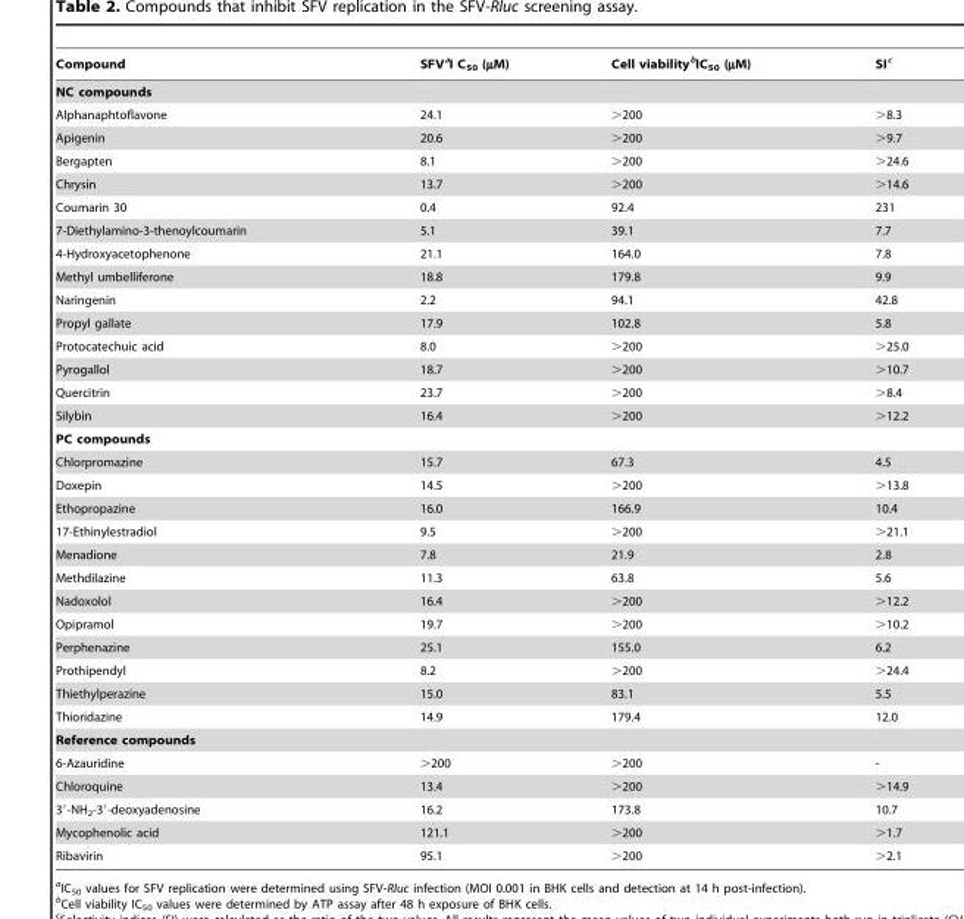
<table><thead><tr><td>Compound</td><td>SFV<sup>a</sup>I C<sub>50</sub> (µM)</td><td>Cell viability<sup>b</sup>IC<sub>50</sub> (µM)</td><td>SI<sup>c</sup></td></tr></thead><tbody><tr><td colspan="4">NC compounds</td></tr><tr><td>Alphanaphtoflavone</td><td>24.1</td><td>&gt;200</td><td>&gt;8.3</td></tr><tr><td>Apigenin</td><td>20.6</td><td>&gt;200</td><td>&gt;9.7</td></tr><tr><td>Bergapten</td><td>8.1</td><td>&gt;200</td><td>&gt;24.6</td></tr><tr><td>Chrysin</td><td>13.7</td><td>&gt;200</td><td>&gt;14.6</td></tr><tr><td>Coumarin 30</td><td>0.4</td><td>92.4</td><td>231</td></tr><tr><td>7-Diethylamino-3-thenoylcoumarin</td><td>5.1</td><td>39.1</td><td>7.7</td></tr><tr><td>4-Hydroxyacetophenone</td><td>21.1</td><td>164.0</td><td>7.8</td></tr><tr><td>Methyl umbelliferone</td><td>18.8</td><td>179.8</td><td>9.9</td></tr><tr><td>Naringenin</td><td>2.2</td><td>94.1</td><td>42.8</td></tr><tr><td>Propyl gallate</td><td>17.9</td><td>102.8</td><td>5.8</td></tr><tr><td>Protocatechuic acid</td><td>8.0</td><td>&gt;200</td><td>&gt;25.0</td></tr><tr><td>Pyrogallol</td><td>18.7</td><td>&gt;200</td><td>&gt;10.7</td></tr><tr><td>Quercitrin</td><td>23.7</td><td>&gt;200</td><td>&gt;8.4</td></tr><tr><td>Silybin</td><td>16.4</td><td>&gt;200</td><td>&gt;12.2</td></tr><tr><td colspan="4">PC compounds</td></tr><tr><td>Chlorpromazine</td><td>15.7</td><td>67.3</td><td>4.5</td></tr><tr><td>Doxepin</td><td>14.5</td><td>&gt;200</td><td>&gt;13.8</td></tr><tr><td>Ethopropazine</td><td>16.0</td><td>166.9</td><td>10.4</td></tr><tr><td>17-Ethinylestradiol</td><td>9.5</td><td>&gt;200</td><td>&gt;21.1</td></tr><tr><td>Menadione</td><td>7.8</td><td>21.9</td><td>2.8</td></tr><tr><td>Methdilazine</td><td>11.3</td><td>63.8</td><td>5.6</td></tr><tr><td>Nadoxolol</td><td>16.4</td><td>&gt;200</td><td>&gt;12.2</td></tr><tr><td>Opipramol</td><td>19.7</td><td>&gt;200</td><td>&gt;10.2</td></tr><tr><td>Perphenazine</td><td>25.1</td><td>155.0</td><td>6.2</td></tr><tr><td>Prothipendyl</td><td>8.2</td><td>&gt;200</td><td>&gt;24.4</td></tr><tr><td>Thiethylperazine</td><td>15.0</td><td>83.1</td><td>5.5</td></tr><tr><td>Thioridazine</td><td>14.9</td><td>179.4</td><td>12.0</td></tr><tr><td colspan="4">Reference compounds</td></tr><tr><td>6-Azauridine</td><td>&gt;200</td><td>&gt;200</td><td>-</td></tr><tr><td>Chloroquine</td><td>13.4</td><td>&gt;200</td><td>&gt;14.9</td></tr><tr><td>3′-NH<sub>2</sub>-3′-deoxyadenosine</td><td>16.2</td><td>173.8</td><td>10.7</td></tr><tr><td>Mycophenolic acid</td><td>121.1</td><td>&gt;200</td><td>&gt;1.7</td></tr><tr><td>Ribavirin</td><td>95.1</td><td>&gt;200</td><td>&gt;2.1</td></tr></tbody></table>